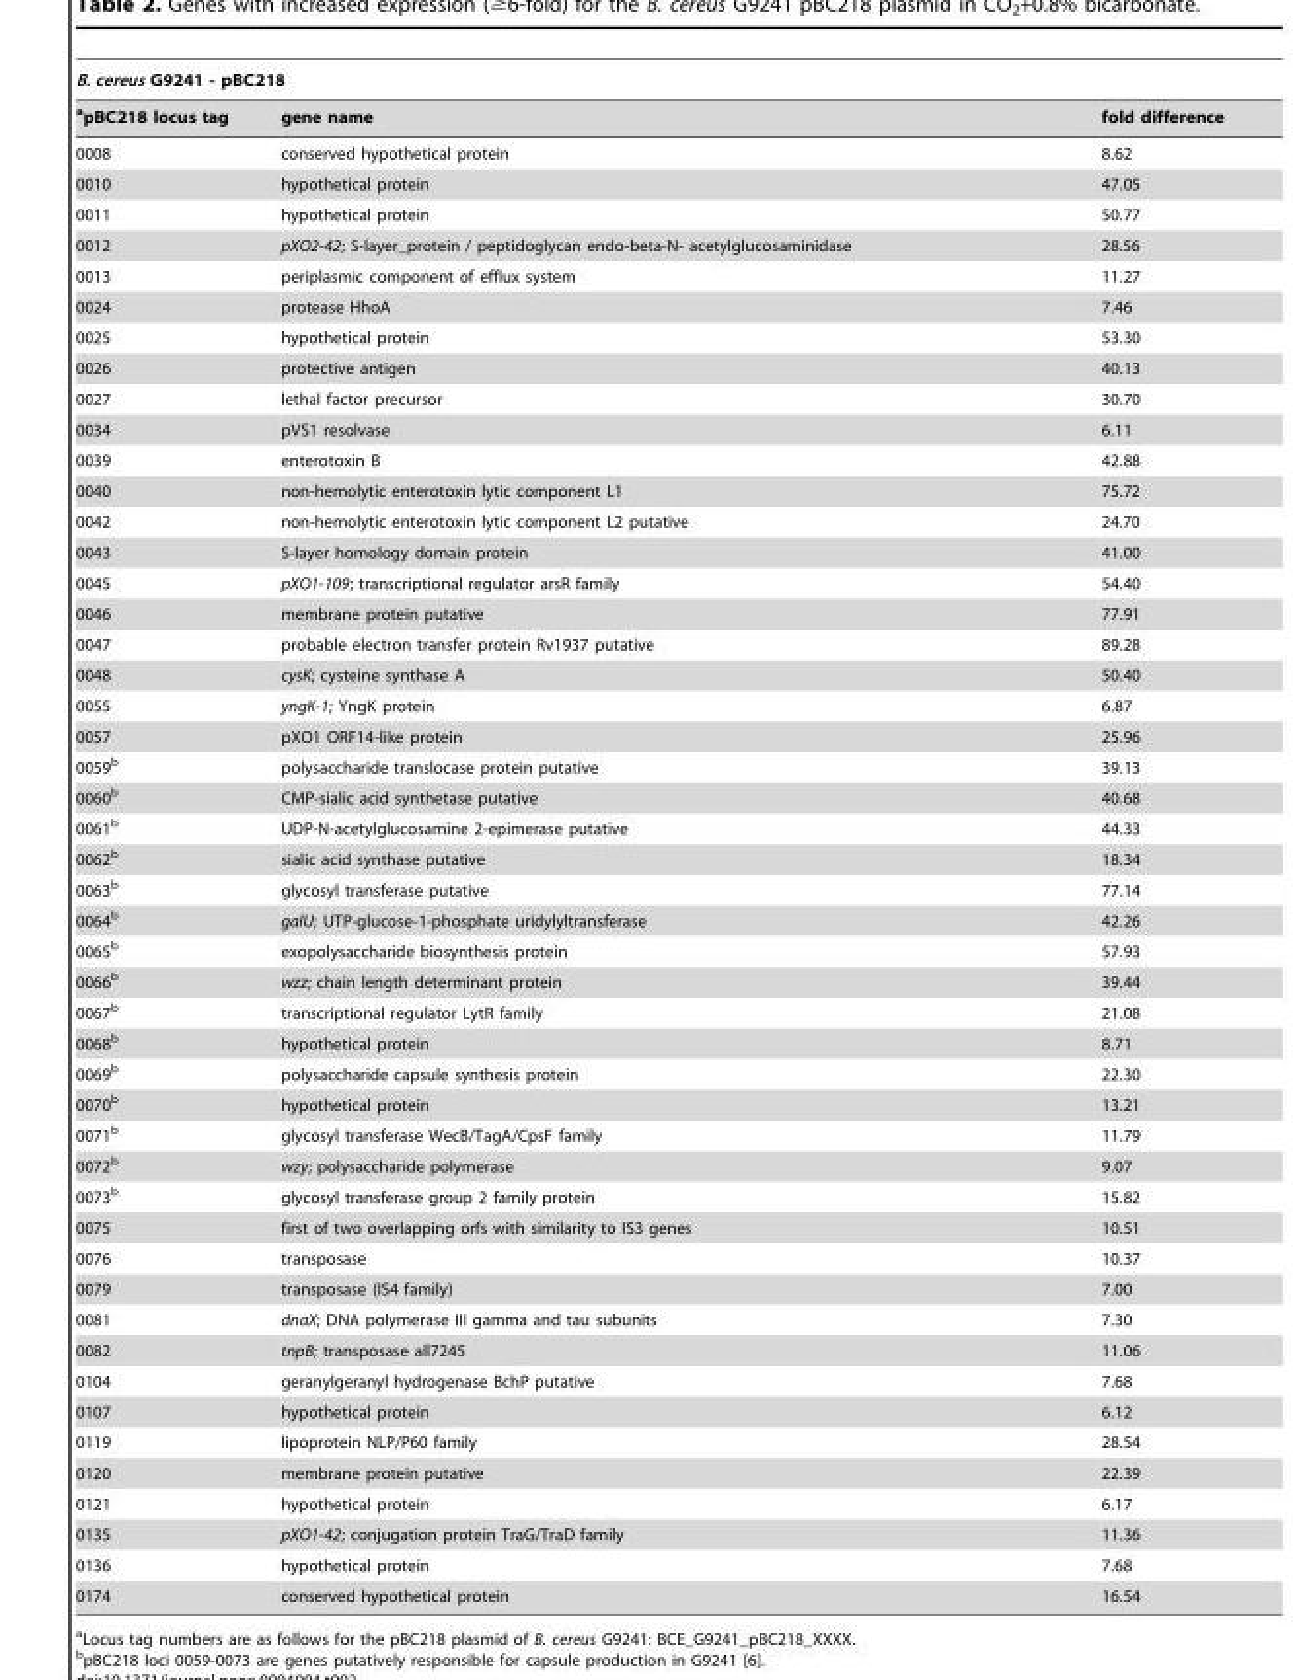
<table><thead><tr><td colspan="3">B. cereus G9241 - pBC218</td></tr><tr><td>apBC218 locus tag</td><td>gene name</td><td>fold difference</td></tr></thead><tbody><tr><td>0008</td><td>conserved hypothetical protein</td><td>8.62</td></tr><tr><td>0010</td><td>hypothetical protein</td><td>47.05</td></tr><tr><td>0011</td><td>hypothetical protein</td><td>50.77</td></tr><tr><td>0012</td><td>pXO2-42; S-layer_protein / peptidoglycan endo-beta-N- acetylglucosaminidase</td><td>28.56</td></tr><tr><td>0013</td><td>periplasmic component of efflux system</td><td>11.27</td></tr><tr><td>0024</td><td>protease HhoA</td><td>7.46</td></tr><tr><td>0025</td><td>hypothetical protein</td><td>53.30</td></tr><tr><td>0026</td><td>protective antigen</td><td>40.13</td></tr><tr><td>0027</td><td>lethal factor precursor</td><td>30.70</td></tr><tr><td>0034</td><td>pVS1 resolvase</td><td>6.11</td></tr><tr><td>0039</td><td>enterotoxin B</td><td>42.88</td></tr><tr><td>0040</td><td>non-hemolytic enterotoxin lytic component L1</td><td>75.72</td></tr><tr><td>0042</td><td>non-hemolytic enterotoxin lytic component L2 putative</td><td>24.70</td></tr><tr><td>0043</td><td>S-layer homology domain protein</td><td>41.00</td></tr><tr><td>0045</td><td>pXO1-109; transcriptional regulator arsR family</td><td>54.40</td></tr><tr><td>0046</td><td>membrane protein putative</td><td>77.91</td></tr><tr><td>0047</td><td>probable electron transfer protein Rv1937 putative</td><td>89.28</td></tr><tr><td>0048</td><td>cysK; cysteine synthase A</td><td>50.40</td></tr><tr><td>0055</td><td>yngK-1; YngK protein</td><td>6.87</td></tr><tr><td>0057</td><td>pXO1 ORF14-like protein</td><td>25.96</td></tr><tr><td>0059<sup>b</sup></td><td>polysaccharide translocase protein putative</td><td>39.13</td></tr><tr><td>0060<sup>b</sup></td><td>CMP-sialic acid synthetase putative</td><td>40.68</td></tr><tr><td>0061<sup>b</sup></td><td>UDP-N-acetylglucosamine 2-epimerase putative</td><td>44.33</td></tr><tr><td>0062<sup>b</sup></td><td>sialic acid synthase putative</td><td>18.34</td></tr><tr><td>0063<sup>b</sup></td><td>glycosyl transferase putative</td><td>77.14</td></tr><tr><td>0064<sup>b</sup></td><td>galU; UTP-glucose-1-phosphate uridylyltransferase</td><td>42.26</td></tr><tr><td>0065<sup>b</sup></td><td>exopolysaccharide biosynthesis protein</td><td>57.93</td></tr><tr><td>0066<sup>b</sup></td><td>wzz; chain length determinant protein</td><td>39.44</td></tr><tr><td>0067<sup>b</sup></td><td>transcriptional regulator LytR family</td><td>21.08</td></tr><tr><td>0068<sup>b</sup></td><td>hypothetical protein</td><td>8.71</td></tr><tr><td>0069<sup>b</sup></td><td>polysaccharide capsule synthesis protein</td><td>22.30</td></tr><tr><td>0070<sup>b</sup></td><td>hypothetical protein</td><td>13.21</td></tr><tr><td>0071<sup>b</sup></td><td>glycosyl transferase WecB/TagA/CpsF family</td><td>11.79</td></tr><tr><td>0072<sup>b</sup></td><td>wzy; polysaccharide polymerase</td><td>9.07</td></tr><tr><td>0073<sup>b</sup></td><td>glycosyl transferase group 2 family protein</td><td>15.82</td></tr><tr><td>0075</td><td>first of two overlapping orfs with similarity to IS3 genes</td><td>10.51</td></tr><tr><td>0076</td><td>transposase</td><td>10.37</td></tr><tr><td>0079</td><td>transposase (IS4 family)</td><td>7.00</td></tr><tr><td>0081</td><td>dnaX; DNA polymerase III gamma and tau subunits</td><td>7.30</td></tr><tr><td>0082</td><td>tnpB; transposase all7245</td><td>11.06</td></tr><tr><td>0104</td><td>geranylgeranyl hydrogenase BchP putative</td><td>7.68</td></tr><tr><td>0107</td><td>hypothetical protein</td><td>6.12</td></tr><tr><td>0119</td><td>lipoprotein NLP/P60 family</td><td>28.54</td></tr><tr><td>0120</td><td>membrane protein putative</td><td>22.39</td></tr><tr><td>0121</td><td>hypothetical protein</td><td>6.17</td></tr><tr><td>0135</td><td>pXO1-42; conjugation protein TraG/TraD family</td><td>11.36</td></tr><tr><td>0136</td><td>hypothetical protein</td><td>7.68</td></tr><tr><td>0174</td><td>conserved hypothetical protein</td><td>16.54</td></tr></tbody></table>